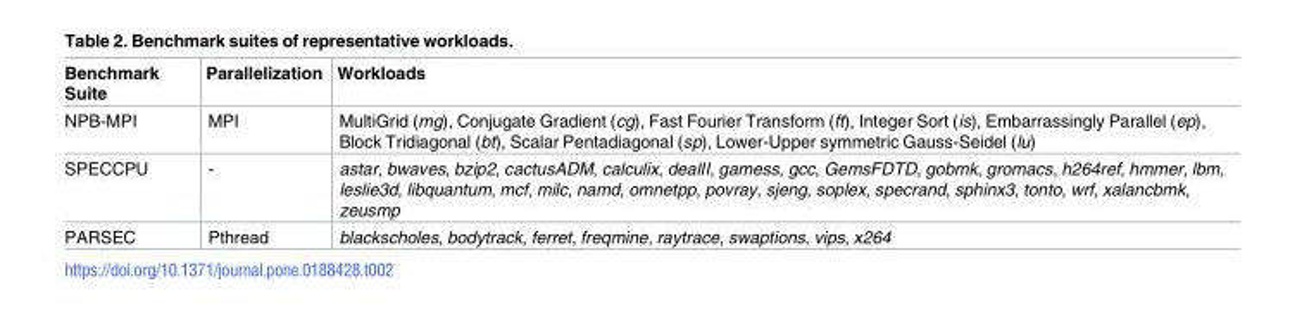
<table><thead><tr><td>Benchmark Suite</td><td>Parallelization</td><td>Workloads</td></tr></thead><tbody><tr><td>NPB-MPI</td><td>MPI</td><td>MultiGrid (mg), Conjugate Gradient (cg), Fast Fourier Transform (ft), Integer Sort (is), Embarrassingly Parallel (ep), Block Tridiagonal (bt), Scalar Pentadiagonal (sp), Lower-Upper symmetric Gauss-Seidel (lu)</td></tr><tr><td>SPECCPU</td><td>-</td><td>astar, bwaves, bzip2, cactusADM, calculix, dealII, gamess, gcc, GemsFDTD, gobmk, gromacs, h264ref, hmmer, lbm, leslie3d, libquantum, mcf, milc, namd, omnetpp, povray, sjeng, soplex, specrand, sphinx3, tonto, wrf, xalancbmk, zeusmp</td></tr><tr><td>PARSEC</td><td>Pthread</td><td>blackscholes, bodytrack, ferret, freqmine, raytrace, swaptions, vips, x264</td></tr></tbody></table>